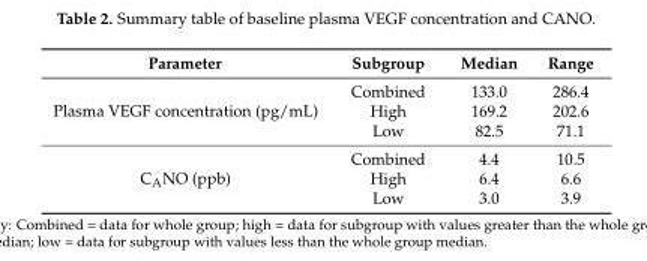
<table><thead><tr><td>Parameter</td><td>Subgroup</td><td>Median</td><td>Range</td></tr></thead><tbody><tr><td rowspan="3">Plasma VEGF concentration (pg/mL)</td><td>Combined</td><td>133.0</td><td>286.4</td></tr><tr><td>High</td><td>169.2</td><td>202.6</td></tr><tr><td>Low</td><td>82.5</td><td>71.1</td></tr><tr><td rowspan="3">C<sub>A</sub>NO (ppb)</td><td>Combined</td><td>4.4</td><td>10.5</td></tr><tr><td>High</td><td>6.4</td><td>6.6</td></tr><tr><td>Low</td><td>3.0</td><td>3.9</td></tr></tbody></table>